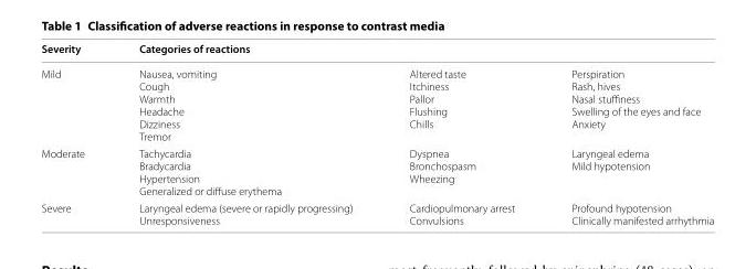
<table><thead><tr><td rowspan="2">Severity Mild</td><td colspan="3">Categories of reactions</td></tr><tr><td>Nausea, vomiting Cough Warmth Headache Dizziness Tremor</td><td>Altered taste Itchiness Pallor Flushing Chills</td><td>Perspiration Rash, hives Nasal stuffiness Swelling of the eyes and face Anxiety</td></tr></thead><tbody><tr><td>Moderate</td><td>Tachycardia Bradycardia Hypertension Generalized or diffuse erythema</td><td>Dyspnea Bronchospasm Wheezing</td><td>Laryngeal edema Mild hypotension</td></tr><tr><td>Severe</td><td>Laryngeal edema (severe or rapidly progressing) Unresponsiveness</td><td>Cardiopulmonary arrest Convulsions</td><td>Profound hypotension Clinically manifested arrhythmia</td></tr></tbody></table>